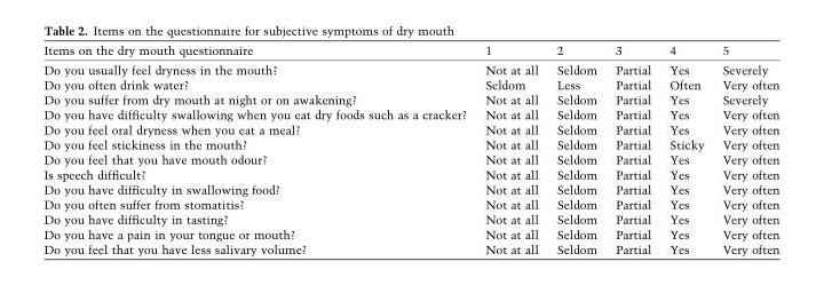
<table><thead><tr><td>Items on the dry mouth questionnaire</td><td>1</td><td>2</td><td>3</td><td>4</td><td>5</td></tr></thead><tbody><tr><td>Do you usually feel dryness in the mouth?</td><td>Not at all</td><td>Seldom</td><td>Partial</td><td>Yes</td><td>Severely</td></tr><tr><td>Do you often drink water?</td><td>Seldom</td><td>Less</td><td>Partial</td><td>Often</td><td>Very often</td></tr><tr><td>Do you suffer from dry mouth at night or on awakening?</td><td>Not at all</td><td>Seldom</td><td>Partial</td><td>Yes</td><td>Severely</td></tr><tr><td>Do you have difficulty swallowing when you eat dry foods such as a cracker?</td><td>Not at all</td><td>Seldom</td><td>Partial</td><td>Yes</td><td>Very often</td></tr><tr><td>Do you feel oral dryness when you eat a meal?</td><td>Not at all</td><td>Seldom</td><td>Partial</td><td>Yes</td><td>Very often</td></tr><tr><td>Do you feel stickiness in the mouth?</td><td>Not at all</td><td>Seldom</td><td>Partial</td><td>Sticky</td><td>Very often</td></tr><tr><td>Do you feel that you have mouth odour?</td><td>Not at all</td><td>Seldom</td><td>Partial</td><td>Yes</td><td>Very often</td></tr><tr><td>Is speech difficult?</td><td>Not at all</td><td>Seldom</td><td>Partial</td><td>Yes</td><td>Very often</td></tr><tr><td>Do you have difficulty in swallowing food?</td><td>Not at all</td><td>Seldom</td><td>Partial</td><td>Yes</td><td>Very often</td></tr><tr><td>Do you often suffer from stomatitis?</td><td>Not at all</td><td>Seldom</td><td>Partial</td><td>Yes</td><td>Very often</td></tr><tr><td>Do you have difficulty in tasting?</td><td>Not at all</td><td>Seldom</td><td>Partial</td><td>Yes</td><td>Very often</td></tr><tr><td>Do you have a pain in your tongue or mouth?</td><td>Not at all</td><td>Seldom</td><td>Partial</td><td>Yes</td><td>Very often</td></tr><tr><td>Do you feel that you have less salivary volume?</td><td>Not at all</td><td>Seldom</td><td>Partial</td><td>Yes</td><td>Very often</td></tr></tbody></table>